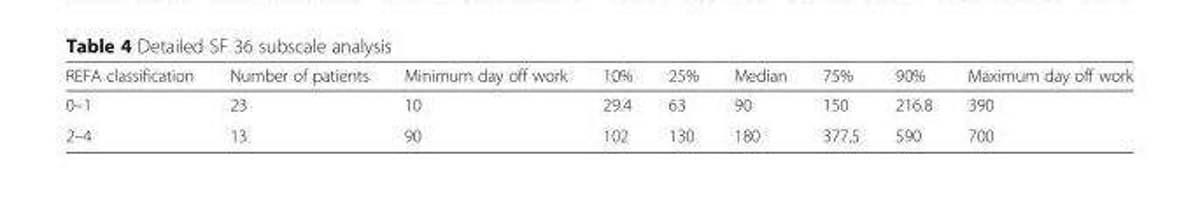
<table><thead><tr><td>REFA classification</td><td>Number of patients</td><td>Minimum day off work</td><td>10%</td><td>25%</td><td>Median</td><td>75%</td><td>90%</td><td>Maximum day off work</td></tr></thead><tbody><tr><td>0–1</td><td>23</td><td>10</td><td>29.4</td><td>63</td><td>90</td><td>150</td><td>216.8</td><td>390</td></tr><tr><td>2–4</td><td>13</td><td>90</td><td>102</td><td>130</td><td>180</td><td>377.5</td><td>590</td><td>700</td></tr></tbody></table>